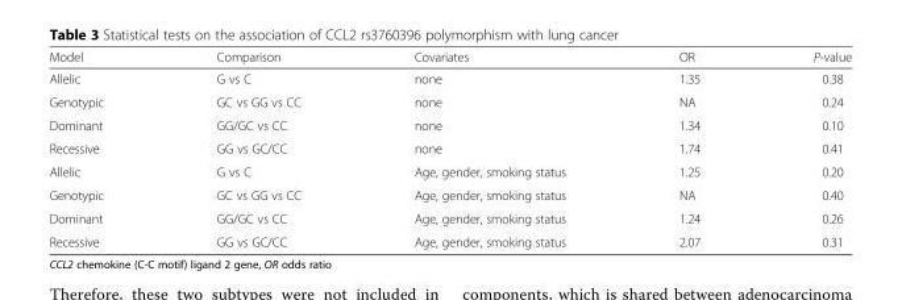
<table><thead><tr><td>Model</td><td>Comparison</td><td>Covariates</td><td>OR</td><td>P-value</td></tr></thead><tbody><tr><td>Allelic</td><td>G vs C</td><td>none</td><td>1.35</td><td>0.38</td></tr><tr><td>Genotypic</td><td>GC vs GG vs CC</td><td>none</td><td>NA</td><td>0.24</td></tr><tr><td>Dominant</td><td>GG/GC vs CC</td><td>none</td><td>1.34</td><td>0.10</td></tr><tr><td>Recessive</td><td>GG vs GC/CC</td><td>none</td><td>1.74</td><td>0.41</td></tr><tr><td>Allelic</td><td>G vs C</td><td>Age, gender, smoking status</td><td>1.25</td><td>0.20</td></tr><tr><td>Genotypic</td><td>GC vs GG vs CC</td><td>Age, gender, smoking status</td><td>NA</td><td>0.40</td></tr><tr><td>Dominant</td><td>GG/GC vs CC</td><td>Age, gender, smoking status</td><td>1.24</td><td>0.26</td></tr><tr><td>Recessive</td><td>GG vs GC/CC</td><td>Age, gender, smoking status</td><td>2.07</td><td>0.31</td></tr></tbody></table>